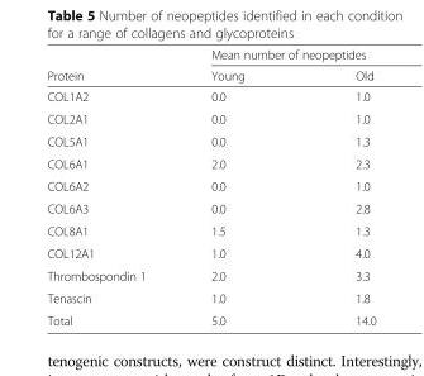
<table><thead><tr><td rowspan="2">Protein</td><td colspan="2">Mean number of neopeptides</td></tr><tr><td>Young</td><td>Old</td></tr></thead><tbody><tr><td>COL1A2</td><td>0.0</td><td>1.0</td></tr><tr><td>COL2A1</td><td>0.0</td><td>1.0</td></tr><tr><td>COL5A1</td><td>0.0</td><td>1.3</td></tr><tr><td>COL6A1</td><td>2.0</td><td>2.3</td></tr><tr><td>COL6A2</td><td>0.0</td><td>1.0</td></tr><tr><td>COL6A3</td><td>0.0</td><td>2.8</td></tr><tr><td>COL8A1</td><td>1.5</td><td>1.3</td></tr><tr><td>COL12A1</td><td>1.0</td><td>4.0</td></tr><tr><td>Thrombospondin 1</td><td>2.0</td><td>3.3</td></tr><tr><td>Tenascin</td><td>1.0</td><td>1.8</td></tr><tr><td>Total</td><td>5.0</td><td>14.0</td></tr></tbody></table>